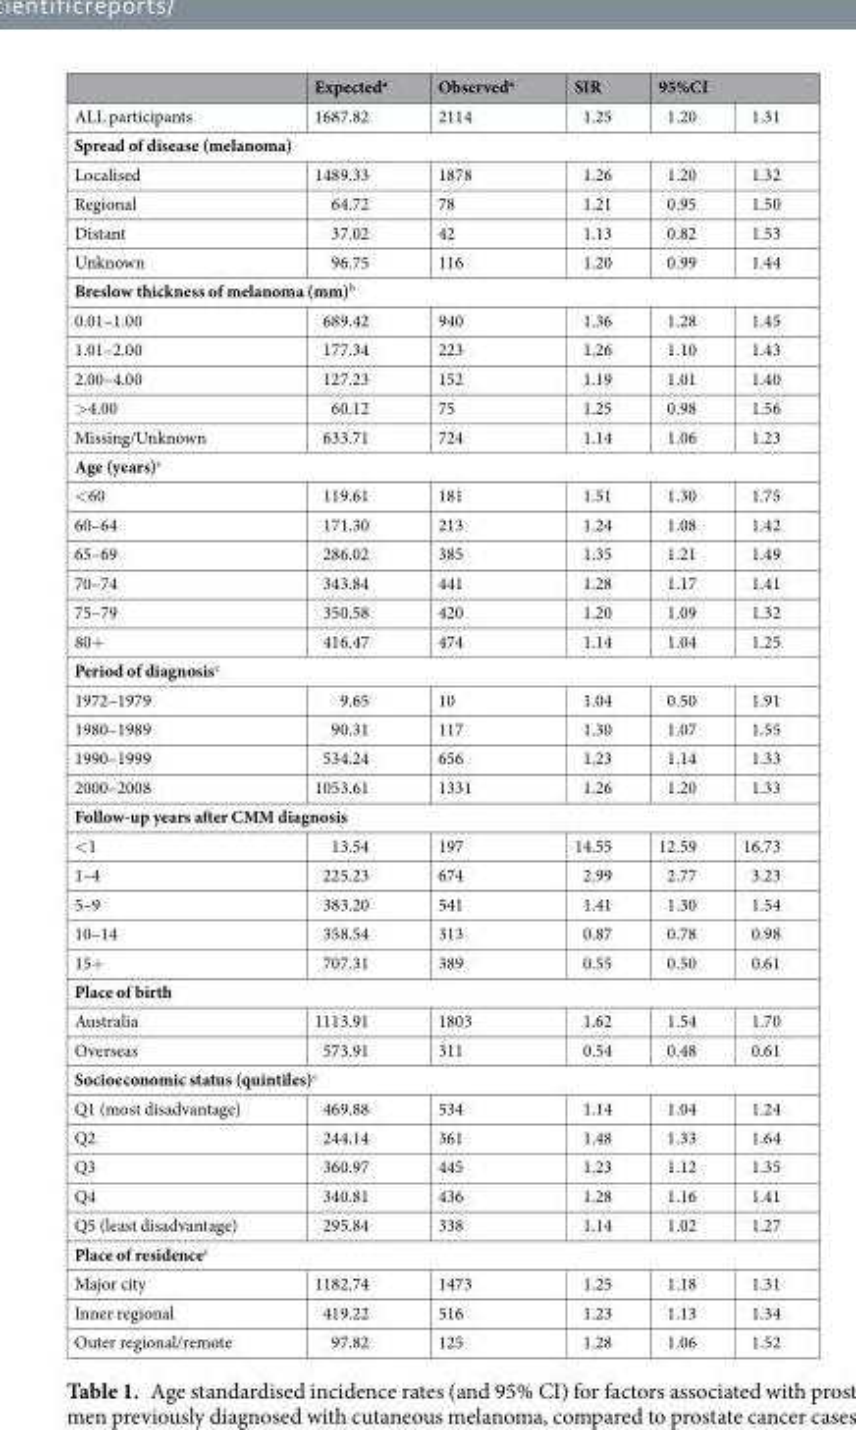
<table><thead><tr><td rowspan="2">ALL participants</td><td rowspan="2">Expected<sup>a</sup> 1687.82</td><td rowspan="2">Observed<sup>a</sup> 2114</td><td rowspan="2">SIR 1.25</td><td colspan="2">95%CI</td></tr><tr><td>1.20</td><td>1.31</td></tr></thead><tbody><tr><td colspan="6">Spread of disease (melanoma)</td></tr><tr><td>Localised</td><td>1489.33</td><td>1878</td><td>1.26</td><td>1.20</td><td>1.32</td></tr><tr><td>Regional</td><td>64.72</td><td>78</td><td>1.21</td><td>0.95</td><td>1.50</td></tr><tr><td>Distant</td><td>37.02</td><td>42</td><td>1.13</td><td>0.82</td><td>1.53</td></tr><tr><td>Unknown</td><td>96.75</td><td>116</td><td>1.20</td><td>0.99</td><td>1.44</td></tr><tr><td colspan="6">Breslow thickness of melanoma (mm)<sup>b</sup></td></tr><tr><td>0.01–1.00</td><td>689.42</td><td>940</td><td>1.36</td><td>1.28</td><td>1.45</td></tr><tr><td>1.01–2.00</td><td>177.34</td><td>223</td><td>1.26</td><td>1.10</td><td>1.43</td></tr><tr><td>2.00–4.00</td><td>127.23</td><td>152</td><td>1.19</td><td>1.01</td><td>1.40</td></tr><tr><td>&gt;4.00</td><td>60.12</td><td>75</td><td>1.25</td><td>0.98</td><td>1.56</td></tr><tr><td>Missing/Unknown</td><td>633.71</td><td>724</td><td>1.14</td><td>1.06</td><td>1.23</td></tr><tr><td colspan="6">Age (years)<sup>c</sup></td></tr><tr><td>&lt;60</td><td>119.61</td><td>181</td><td>1.51</td><td>1.30</td><td>1.75</td></tr><tr><td>60–64</td><td>171.30</td><td>213</td><td>1.24</td><td>1.08</td><td>1.42</td></tr><tr><td>65–69</td><td>286.02</td><td>385</td><td>1.35</td><td>1.21</td><td>1.49</td></tr><tr><td>70–74</td><td>343.84</td><td>441</td><td>1.28</td><td>1.17</td><td>1.41</td></tr><tr><td>75–79</td><td>350.58</td><td>420</td><td>1.20</td><td>1.09</td><td>1.32</td></tr><tr><td>80+</td><td>416.47</td><td>474</td><td>1.14</td><td>1.04</td><td>1.25</td></tr><tr><td colspan="6">Period of diagnosis<sup>c</sup></td></tr><tr><td>1972–1979</td><td>9.65</td><td>10</td><td>1.04</td><td>0.50</td><td>1.91</td></tr><tr><td>1980–1989</td><td>90.31</td><td>117</td><td>1.30</td><td>1.07</td><td>1.55</td></tr><tr><td>1990–1999</td><td>534.24</td><td>656</td><td>1.23</td><td>1.14</td><td>1.33</td></tr><tr><td>2000–2008</td><td>1053.61</td><td>1331</td><td>1.26</td><td>1.20</td><td>1.33</td></tr><tr><td colspan="6">Follow-up years after CMM diagnosis</td></tr><tr><td>&lt;1</td><td>13.54</td><td>197</td><td>14.55</td><td>12.59</td><td>16.73</td></tr><tr><td>1–4</td><td>225.23</td><td>674</td><td>2.99</td><td>2.77</td><td>3.23</td></tr><tr><td>5–9</td><td>383.20</td><td>541</td><td>1.41</td><td>1.30</td><td>1.54</td></tr><tr><td>10–14</td><td>358.54</td><td>313</td><td>0.87</td><td>0.78</td><td>0.98</td></tr><tr><td>15+</td><td>707.31</td><td>389</td><td>0.55</td><td>0.50</td><td>0.61</td></tr><tr><td colspan="6">Place of birth</td></tr><tr><td>Australia</td><td>1113.91</td><td>1803</td><td>1.62</td><td>1.54</td><td>1.70</td></tr><tr><td>Overseas</td><td>573.91</td><td>311</td><td>0.54</td><td>0.48</td><td>0.61</td></tr><tr><td colspan="6">Socioeconomic status (quintiles)<sup>c</sup></td></tr><tr><td>Q1 (most disadvantage)</td><td>469.88</td><td>534</td><td>1.14</td><td>1.04</td><td>1.24</td></tr><tr><td>Q2</td><td>244.14</td><td>361</td><td>1.48</td><td>1.33</td><td>1.64</td></tr><tr><td>Q3</td><td>360.97</td><td>445</td><td>1.23</td><td>1.12</td><td>1.35</td></tr><tr><td>Q4</td><td>340.81</td><td>436</td><td>1.28</td><td>1.16</td><td>1.41</td></tr><tr><td>Q5 (least disadvantage)</td><td>295.84</td><td>338</td><td>1.14</td><td>1.02</td><td>1.27</td></tr><tr><td colspan="6">Place of residence<sup>c</sup></td></tr><tr><td>Major city</td><td>1182.74</td><td>1473</td><td>1.25</td><td>1.18</td><td>1.31</td></tr><tr><td>Inner regional</td><td>419.22</td><td>516</td><td>1.23</td><td>1.13</td><td>1.34</td></tr><tr><td>Outer regional/remote</td><td>97.82</td><td>125</td><td>1.28</td><td>1.06</td><td>1.52</td></tr></tbody></table>